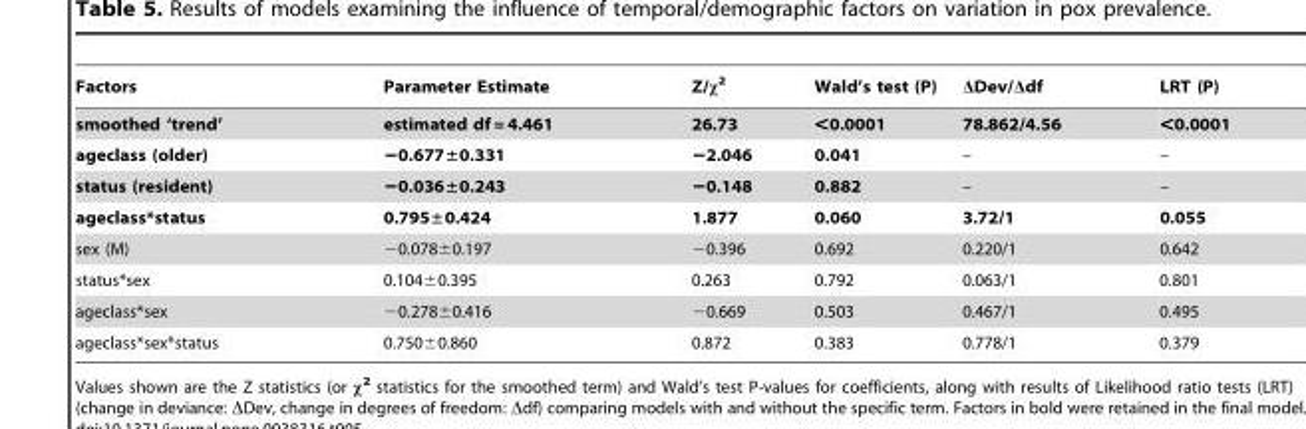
<table><thead><tr><td>Factors</td><td>Parameter Estimate</td><td>Z/χ<sup>2</sup></td><td>Wald’s test (P)</td><td>ΔDev/Δdf</td><td>LRT (P)</td></tr></thead><tbody><tr><td>smoothed ‘trend’</td><td>estimated df = 4.461</td><td>26.73</td><td>&lt;0.0001</td><td>78.862/4.56</td><td>&lt;0.0001</td></tr><tr><td>ageclass (older)</td><td>−0.677±0.331</td><td>−2.046</td><td>0.041</td><td>–</td><td>–</td></tr><tr><td>status (resident)</td><td>−0.036±0.243</td><td>−0.148</td><td>0.882</td><td>–</td><td>–</td></tr><tr><td>ageclass*status</td><td>0.795±0.424</td><td>1.877</td><td>0.060</td><td>3.72/1</td><td>0.055</td></tr><tr><td>sex (M)</td><td>−0.078±0.197</td><td>−0.396</td><td>0.692</td><td>0.220/1</td><td>0.642</td></tr><tr><td>status*sex</td><td>0.104±0.395</td><td>0.263</td><td>0.792</td><td>0.063/1</td><td>0.801</td></tr><tr><td>ageclass*sex</td><td>−0.278±0.416</td><td>−0.669</td><td>0.503</td><td>0.467/1</td><td>0.495</td></tr><tr><td>ageclass*sex*status</td><td>0.750±0.860</td><td>0.872</td><td>0.383</td><td>0.778/1</td><td>0.379</td></tr></tbody></table>